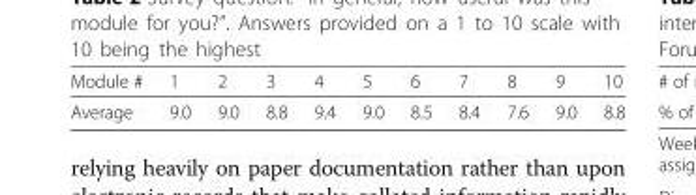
<table><thead><tr><td>Module #</td><td>1</td><td>2</td><td>3</td><td>4</td><td>5</td><td>6</td><td>7</td><td>8</td><td>9</td><td>10</td></tr></thead><tbody><tr><td>Average</td><td>9.0</td><td>9.0</td><td>8.8</td><td>9.4</td><td>9.0</td><td>8.5</td><td>8.4</td><td>7.6</td><td>9.0</td><td>8.8</td></tr></tbody></table>